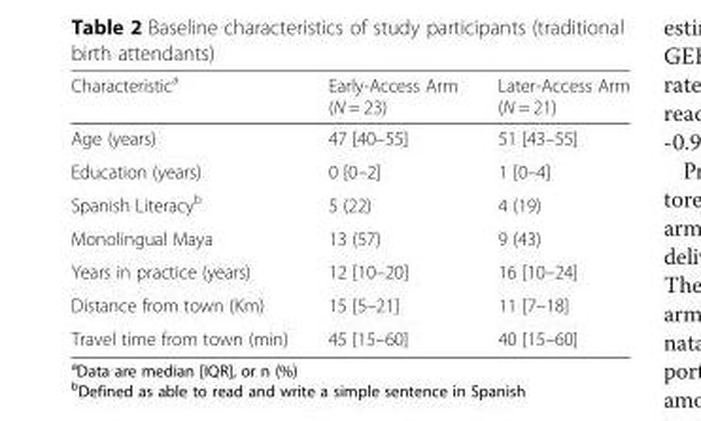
<table><thead><tr><td>Characteristic<sup>a</sup></td><td>Early-Access Arm (N = 23)</td><td>Later-Access Arm (N = 21)</td></tr></thead><tbody><tr><td>Age (years)</td><td>47 [40–55]</td><td>51 [43–55]</td></tr><tr><td>Education (years)</td><td>0 [0–2]</td><td>1 [0–4]</td></tr><tr><td>Spanish Literacy<sup>b</sup></td><td>5 (22)</td><td>4 (19)</td></tr><tr><td>Monolingual Maya</td><td>13 (57)</td><td>9 (43)</td></tr><tr><td>Years in practice (years)</td><td>12 [10–20]</td><td>16 [10–24]</td></tr><tr><td>Distance from town (Km)</td><td>15 [5–21]</td><td>11 [7–18]</td></tr><tr><td>Travel time from town (min)</td><td>45 [15–60]</td><td>40 [15–60]</td></tr></tbody></table>